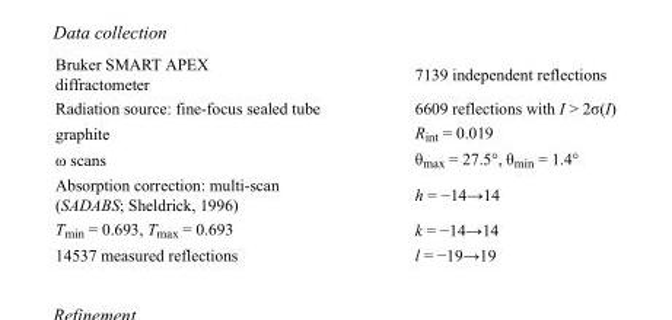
<table><tbody><tr><td>Bruker SMART APEX diffractometer</td><td>7139 independent reflections</td></tr><tr><td>Radiation source: fine-focus sealed tube</td><td>6609 reflections with I &gt; 2σ(I)</td></tr><tr><td>graphite</td><td>R<sub>int</sub> = 0.019</td></tr><tr><td>ω scans</td><td>θ<sub>max</sub> = 27.5°, θ<sub>min</sub> = 1.4°</td></tr><tr><td>Absorption correction: multi-scan (SADABS; Sheldrick, 1996)</td><td>h = −14→14</td></tr><tr><td>T<sub>min</sub> = 0.693, T<sub>max</sub> = 0.693</td><td>k = −14→14</td></tr><tr><td>14537 measured reflections</td><td>l = −19→19</td></tr></tbody></table>